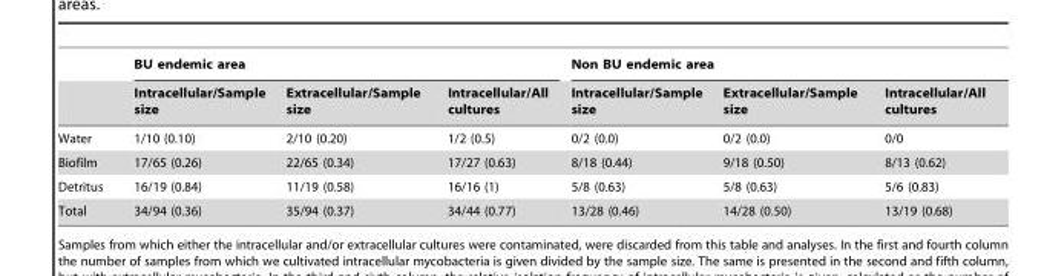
<table><thead><tr><td rowspan="2"></td><td colspan="3">BU endemic area</td><td colspan="3">Non BU endemic area</td></tr><tr><td>Intracellular/Sample size</td><td>Extracellular/Sample size</td><td>Intracellular/All cultures</td><td>Intracellular/Sample size</td><td>Extracellular/Sample size</td><td>Intracellular/All cultures</td></tr></thead><tbody><tr><td>Water</td><td>1/10 (0.10)</td><td>2/10 (0.20)</td><td>1/2 (0.5)</td><td>0/2 (0.0)</td><td>0/2 (0.0)</td><td>0/0</td></tr><tr><td>Biofilm</td><td>17/65 (0.26)</td><td>22/65 (0.34)</td><td>17/27 (0.63)</td><td>8/18 (0.44)</td><td>9/18 (0.50)</td><td>8/13 (0.62)</td></tr><tr><td>Detritus</td><td>16/19 (0.84)</td><td>11/19 (0.58)</td><td>16/16 (1)</td><td>5/8 (0.63)</td><td>5/8 (0.63)</td><td>5/6 (0.83)</td></tr><tr><td>Total</td><td>34/94 (0.36)</td><td>35/94 (0.37)</td><td>34/44 (0.77)</td><td>13/28 (0.46)</td><td>14/28 (0.50)</td><td>13/19 (0.68)</td></tr></tbody></table>